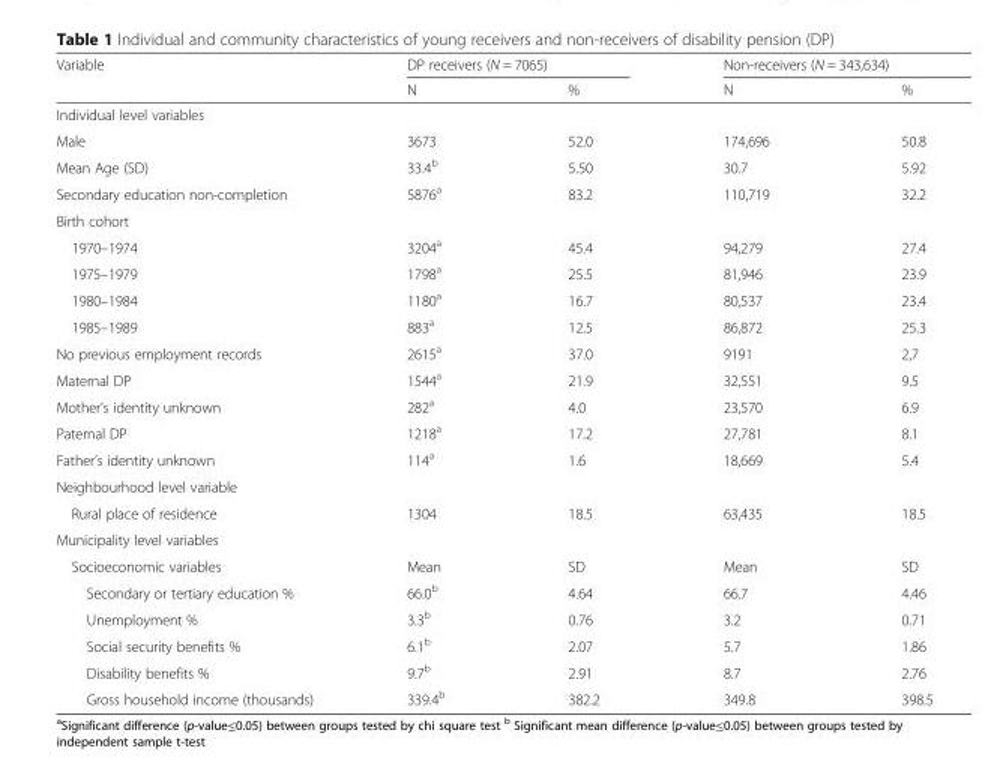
<table><thead><tr><td rowspan="2">Variable</td><td colspan="2">DP receivers (N = 7065)</td><td colspan="2">Non-receivers (N = 343,634)</td></tr><tr><td>N</td><td>%</td><td>N</td><td>%</td></tr></thead><tbody><tr><td colspan="5">Individual level variables</td></tr><tr><td>Male</td><td>3673</td><td>52.0</td><td>174,696</td><td>50.8</td></tr><tr><td>Mean Age (SD)</td><td>33.4<sup>b</sup></td><td>5.50</td><td>30.7</td><td>5.92</td></tr><tr><td>Secondary education non-completion</td><td>5876<sup>a</sup></td><td>83.2</td><td>110,719</td><td>32.2</td></tr><tr><td colspan="5">Birth cohort</td></tr><tr><td>1970–1974</td><td>3204<sup>a</sup></td><td>45.4</td><td>94,279</td><td>27.4</td></tr><tr><td>1975–1979</td><td>1798<sup>a</sup></td><td>25.5</td><td>81,946</td><td>23.9</td></tr><tr><td>1980–1984</td><td>1180<sup>a</sup></td><td>16.7</td><td>80,537</td><td>23.4</td></tr><tr><td>1985–1989</td><td>883<sup>a</sup></td><td>12.5</td><td>86,872</td><td>25.3</td></tr><tr><td>No previous employment records</td><td>2615<sup>a</sup></td><td>37.0</td><td>9191</td><td>2,7</td></tr><tr><td>Maternal DP</td><td>1544<sup>a</sup></td><td>21.9</td><td>32,551</td><td>9.5</td></tr><tr><td>Mother’s identity unknown</td><td>282<sup>a</sup></td><td>4.0</td><td>23,570</td><td>6.9</td></tr><tr><td>Paternal DP</td><td>1218<sup>a</sup></td><td>17.2</td><td>27,781</td><td>8.1</td></tr><tr><td>Father’s identity unknown</td><td>114<sup>a</sup></td><td>1.6</td><td>18,669</td><td>5.4</td></tr><tr><td colspan="5">Neighbourhood level variable</td></tr><tr><td>Rural place of residence</td><td>1304</td><td>18.5</td><td>63,435</td><td>18.5</td></tr><tr><td colspan="5">Municipality level variables</td></tr><tr><td>Socioeconomic variables</td><td>Mean</td><td>SD</td><td>Mean</td><td>SD</td></tr><tr><td>Secondary or tertiary education %</td><td>66.0<sup>b</sup></td><td>4.64</td><td>66.7</td><td>4.46</td></tr><tr><td>Unemployment %</td><td>3.3<sup>b</sup></td><td>0.76</td><td>3.2</td><td>0.71</td></tr><tr><td>Social security benefits %</td><td>6.1<sup>b</sup></td><td>2.07</td><td>5.7</td><td>1.86</td></tr><tr><td>Disability benefits %</td><td>9.7<sup>b</sup></td><td>2.91</td><td>8.7</td><td>2.76</td></tr><tr><td>Gross household income (thousands)</td><td>339.4<sup>b</sup></td><td>382.2</td><td>349.8</td><td>398.5</td></tr></tbody></table>